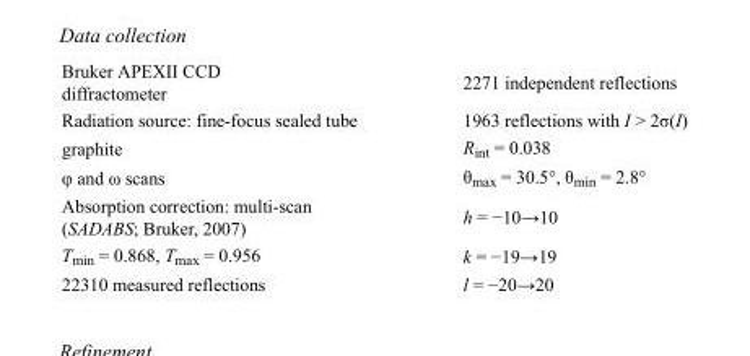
<table><tbody><tr><td>Bruker APEXII CCD diffractometer</td><td>2271 independent reflections</td></tr><tr><td>Radiation source: fine-focus sealed tube</td><td>1963 reflections with I &gt; 2σ(I)</td></tr><tr><td>graphite</td><td>R<sub>int</sub> = 0.038</td></tr><tr><td>φ and ω scans</td><td>θ<sub>max</sub> = 30.5°, θ<sub>min</sub> = 2.8°</td></tr><tr><td>Absorption correction: multi-scan (SADABS; Bruker, 2007)</td><td>h = −10→10</td></tr><tr><td>T<sub>min</sub> = 0.868, T<sub>max</sub> = 0.956</td><td>k = −19→19</td></tr><tr><td>22310 measured reflections</td><td>l = −20→20</td></tr></tbody></table>